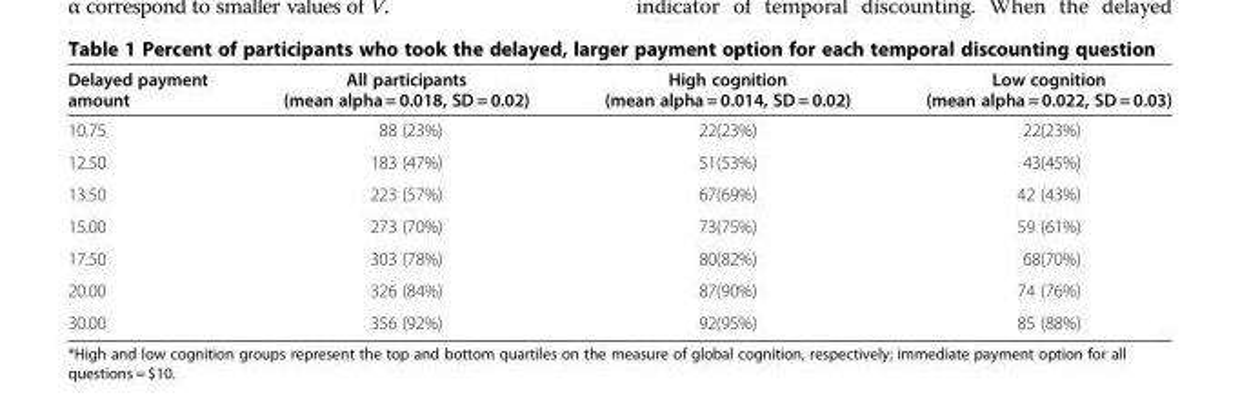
<table><thead><tr><td>Delayed payment amount</td><td>All participants (mean alpha = 0.018, SD = 0.02)</td><td>High cognition (mean alpha = 0.014, SD = 0.02)</td><td>Low cognition (mean alpha = 0.022, SD = 0.03)</td></tr></thead><tbody><tr><td>10.75</td><td>88 (23%)</td><td>22(23%)</td><td>22(23%)</td></tr><tr><td>12.50</td><td>183 (47%)</td><td>51(53%)</td><td>43(45%)</td></tr><tr><td>13.50</td><td>223 (57%)</td><td>67(69%)</td><td>42 (43%)</td></tr><tr><td>15.00</td><td>273 (70%)</td><td>73(75%)</td><td>59 (61%)</td></tr><tr><td>17.50</td><td>303 (78%)</td><td>80(82%)</td><td>68(70%)</td></tr><tr><td>20.00</td><td>326 (84%)</td><td>87(90%)</td><td>74 (76%)</td></tr><tr><td>30.00</td><td>356 (92%)</td><td>92(95%)</td><td>85 (88%)</td></tr></tbody></table>